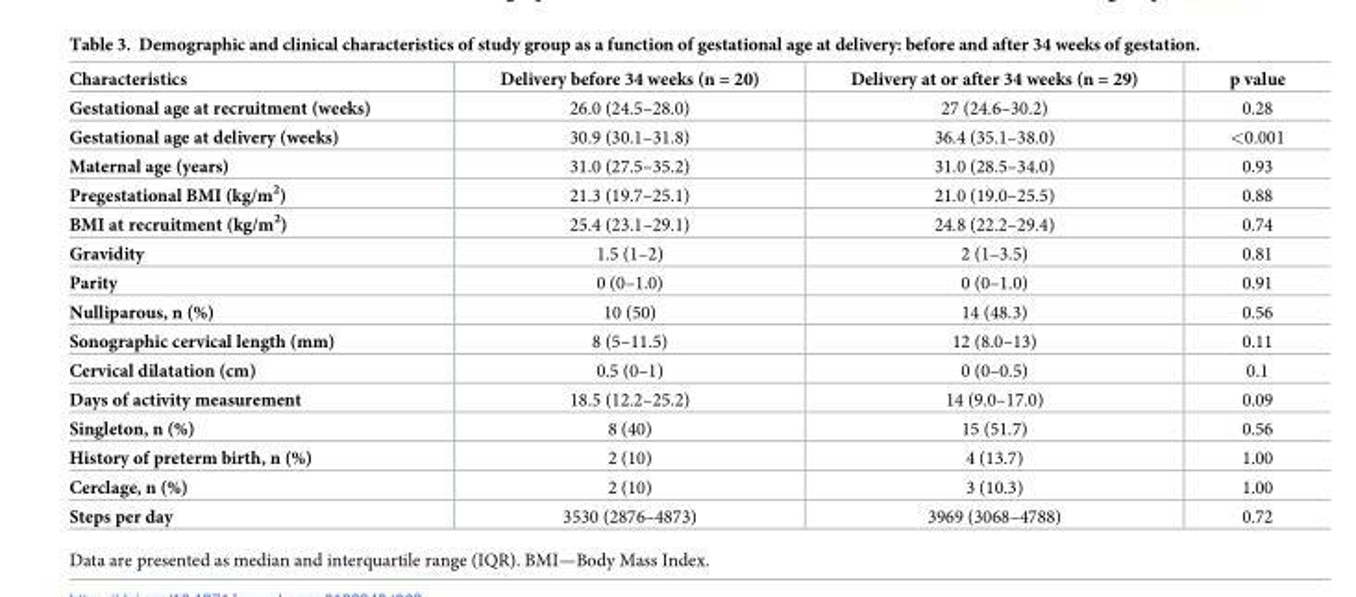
<table><thead><tr><td>Characteristics</td><td>Delivery before 34 weeks (n = 20)</td><td>Delivery at or after 34 weeks (n = 29)</td><td>p value</td></tr></thead><tbody><tr><td>Gestational age at recruitment (weeks)</td><td>26.0 (24.5–28.0)</td><td>27 (24.6–30.2)</td><td>0.28</td></tr><tr><td>Gestational age at delivery (weeks)</td><td>30.9 (30.1–31.8)</td><td>36.4 (35.1–38.0)</td><td>&lt;0.001</td></tr><tr><td>Maternal age (years)</td><td>31.0 (27.5–35.2)</td><td>31.0 (28.5–34.0)</td><td>0.93</td></tr><tr><td>Pregestational BMI (kg/m<sup>2</sup>)</td><td>21.3 (19.7–25.1)</td><td>21.0 (19.0–25.5)</td><td>0.88</td></tr><tr><td>BMI at recruitment (kg/m<sup>2</sup>)</td><td>25.4 (23.1–29.1)</td><td>24.8 (22.2–29.4)</td><td>0.74</td></tr><tr><td>Gravidity</td><td>1.5 (1–2)</td><td>2 (1–3.5)</td><td>0.81</td></tr><tr><td>Parity</td><td>0 (0–1.0)</td><td>0 (0–1.0)</td><td>0.91</td></tr><tr><td>Nulliparous, n (%)</td><td>10 (50)</td><td>14 (48.3)</td><td>0.56</td></tr><tr><td>Sonographic cervical length (mm)</td><td>8 (5–11.5)</td><td>12 (8.0–13)</td><td>0.11</td></tr><tr><td>Cervical dilatation (cm)</td><td>0.5 (0–1)</td><td>0 (0–0.5)</td><td>0.1</td></tr><tr><td>Days of activity measurement</td><td>18.5 (12.2–25.2)</td><td>14 (9.0–17.0)</td><td>0.09</td></tr><tr><td>Singleton, n (%)</td><td>8 (40)</td><td>15 (51.7)</td><td>0.56</td></tr><tr><td>History of preterm birth, n (%)</td><td>2 (10)</td><td>4 (13.7)</td><td>1.00</td></tr><tr><td>Cerclage, n (%)</td><td>2 (10)</td><td>3 (10.3)</td><td>1.00</td></tr><tr><td>Steps per day</td><td>3530 (2876–4873)</td><td>3969 (3068–4788)</td><td>0.72</td></tr></tbody></table>